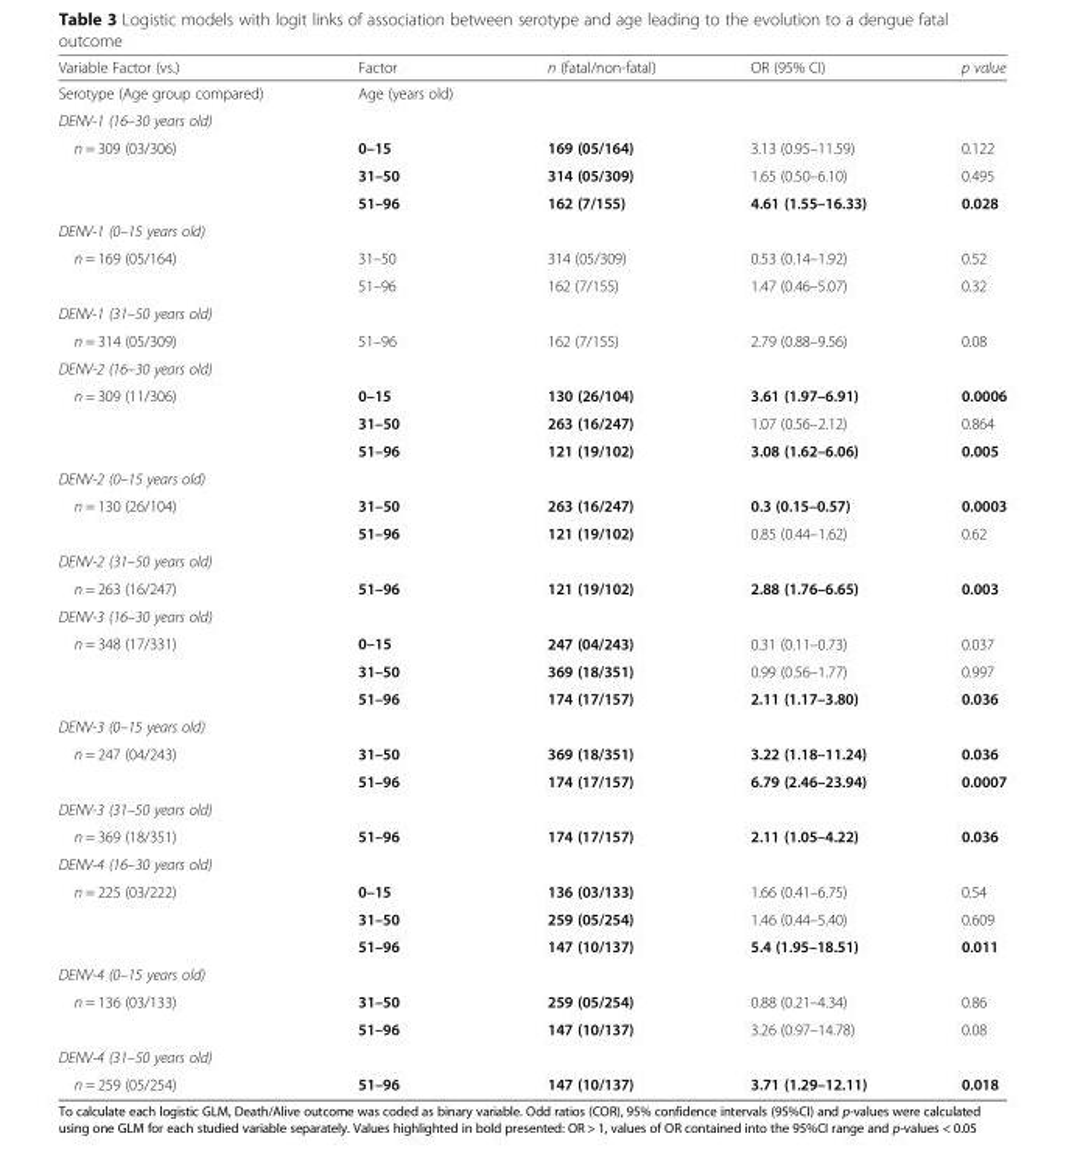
<table><thead><tr><td>Variable Factor (vs.)</td><td>Factor</td><td>n (fatal/non-fatal)</td><td>OR (95% CI)</td><td>p value</td></tr></thead><tbody><tr><td>Serotype (Age group compared)</td><td>Age (years old)</td><td></td><td></td><td></td></tr><tr><td colspan="5">DENV-1 (16–30 years old)</td></tr><tr><td rowspan="3">n = 309 (03/306)</td><td>0–15</td><td>169 (05/164)</td><td>3.13 (0.95–11.59)</td><td>0.122</td></tr><tr><td>31–50</td><td>314 (05/309)</td><td>1.65 (0.50–6.10)</td><td>0.495</td></tr><tr><td>51–96</td><td>162 (7/155)</td><td>4.61 (1.55–16.33)</td><td>0.028</td></tr><tr><td colspan="5">DENV-1 (0–15 years old)</td></tr><tr><td rowspan="2">n = 169 (05/164)</td><td>31–50</td><td>314 (05/309)</td><td>0.53 (0.14–1.92)</td><td>0.52</td></tr><tr><td>51–96</td><td>162 (7/155)</td><td>1.47 (0.46–5.07)</td><td>0.32</td></tr><tr><td colspan="5">DENV-1 (31–50 years old)</td></tr><tr><td>n = 314 (05/309)</td><td>51–96</td><td>162 (7/155)</td><td>2.79 (0.88–9.56)</td><td>0.08</td></tr><tr><td colspan="5">DENV-2 (16–30 years old)</td></tr><tr><td rowspan="3">n = 309 (11/306)</td><td>0–15</td><td>130 (26/104)</td><td>3.61 (1.97–6.91)</td><td>0.0006</td></tr><tr><td>31–50</td><td>263 (16/247)</td><td>1.07 (0.56–2.12)</td><td>0.864</td></tr><tr><td>51–96</td><td>121 (19/102)</td><td>3.08 (1.62–6.06)</td><td>0.005</td></tr><tr><td colspan="5">DENV-2 (0–15 years old)</td></tr><tr><td rowspan="2">n = 130 (26/104)</td><td>31–50</td><td>263 (16/247)</td><td>0.3 (0.15–0.57)</td><td>0.0003</td></tr><tr><td>51–96</td><td>121 (19/102)</td><td>0.85 (0.44–1.62)</td><td>0.62</td></tr><tr><td colspan="5">DENV-2 (31–50 years old)</td></tr><tr><td>n = 263 (16/247)</td><td>51–96</td><td>121 (19/102)</td><td>2.88 (1.76–6.65)</td><td>0.003</td></tr><tr><td colspan="5">DENV-3 (16–30 years old)</td></tr><tr><td rowspan="3">n = 348 (17/331)</td><td>0–15</td><td>247 (04/243)</td><td>0.31 (0.11–0.73)</td><td>0.037</td></tr><tr><td>31–50</td><td>369 (18/351)</td><td>0.99 (0.56–1.77)</td><td>0.997</td></tr><tr><td>51–96</td><td>174 (17/157)</td><td>2.11 (1.17–3.80)</td><td>0.036</td></tr><tr><td colspan="5">DENV-3 (0–15 years old)</td></tr><tr><td rowspan="2">n = 247 (04/243)</td><td>31–50</td><td>369 (18/351)</td><td>3.22 (1.18–11.24)</td><td>0.036</td></tr><tr><td>51–96</td><td>174 (17/157)</td><td>6.79 (2.46–23.94)</td><td>0.0007</td></tr><tr><td colspan="5">DENV-3 (31–50 years old)</td></tr><tr><td>n = 369 (18/351)</td><td>51–96</td><td>174 (17/157)</td><td>2.11 (1.05–4.22)</td><td>0.036</td></tr><tr><td colspan="5">DENV-4 (16–30 years old)</td></tr><tr><td rowspan="3">n = 225 (03/222)</td><td>0–15</td><td>136 (03/133)</td><td>1.66 (0.41–6.75)</td><td>0.54</td></tr><tr><td>31–50</td><td>259 (05/254)</td><td>1.46 (0.44–5.40)</td><td>0.609</td></tr><tr><td>51–96</td><td>147 (10/137)</td><td>5.4 (1.95–18.51)</td><td>0.011</td></tr><tr><td colspan="5">DENV-4 (0–15 years old)</td></tr><tr><td rowspan="2">n = 136 (03/133)</td><td>31–50</td><td>259 (05/254)</td><td>0.88 (0.21–4.34)</td><td>0.86</td></tr><tr><td>51–96</td><td>147 (10/137)</td><td>3.26 (0.97–14.78)</td><td>0.08</td></tr><tr><td colspan="5">DENV-4 (31–50 years old)</td></tr><tr><td>n = 259 (05/254)</td><td>51–96</td><td>147 (10/137)</td><td>3.71 (1.29–12.11)</td><td>0.018</td></tr></tbody></table>